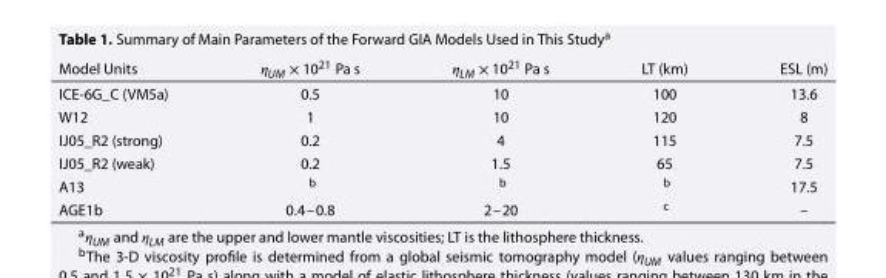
<table><thead><tr><td>Model Units</td><td>𝜂<sub>UM</sub> × 10<sup>21</sup> Pa s</td><td>𝜂<sub>LM</sub> × 10<sup>21</sup> Pa s</td><td>LT (km)</td><td>ESL (m)</td></tr></thead><tbody><tr><td>ICE-6G_C (VM5a)</td><td>0.5</td><td>10</td><td>100</td><td>13.6</td></tr><tr><td>W12</td><td>1</td><td>10</td><td>120</td><td>8</td></tr><tr><td>IJ05_R2 (strong)</td><td>0.2</td><td>4</td><td>115</td><td>7.5</td></tr><tr><td>IJ05_R2 (weak)</td><td>0.2</td><td>1.5</td><td>65</td><td>7.5</td></tr><tr><td>A13</td><td>b</td><td>b</td><td>b</td><td>17.5</td></tr><tr><td>AGE1b</td><td>0.4–0.8</td><td>2–20</td><td>c</td><td>–</td></tr></tbody></table>